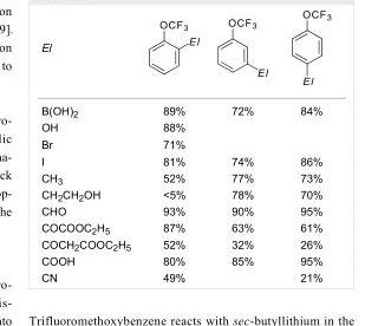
<table><tbody><tr><td colspan="4">El</td></tr><tr><td>B(OH)<sub>2</sub></td><td>89%</td><td>72%</td><td>84%</td></tr><tr><td>OH</td><td>88%</td><td></td><td></td></tr><tr><td>Br</td><td>71%</td><td></td><td></td></tr><tr><td>I</td><td>81%</td><td>74%</td><td>86%</td></tr><tr><td>CH<sub>3</sub></td><td>52%</td><td>77%</td><td>73%</td></tr><tr><td>CH<sub>2</sub>CH<sub>2</sub>OH</td><td>&lt;5%</td><td>78%</td><td>70%</td></tr><tr><td>CHO</td><td>93%</td><td>90%</td><td>95%</td></tr><tr><td>COCOOC<sub>2</sub>H<sub>5</sub></td><td>87%</td><td>63%</td><td>61%</td></tr><tr><td>COCH<sub>2</sub>COOC<sub>2</sub>H<sub>5</sub></td><td>52%</td><td>32%</td><td>26%</td></tr><tr><td>COOH</td><td>80%</td><td>85%</td><td>95%</td></tr><tr><td>CN</td><td>49%</td><td></td><td>21%</td></tr></tbody></table>